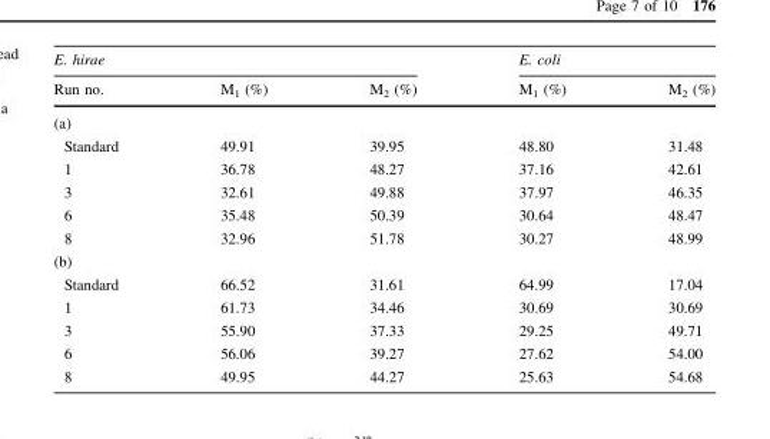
<table><thead><tr><td colspan="3">E. hirae</td><td colspan="2">E. coli</td></tr><tr><td>Run no.</td><td>M<sub>1</sub> (%)</td><td>M<sub>2</sub> (%)</td><td>M<sub>1</sub> (%)</td><td>M<sub>2</sub> (%)</td></tr></thead><tbody><tr><td colspan="5">(a)</td></tr><tr><td>Standard</td><td>49.91</td><td>39.95</td><td>48.80</td><td>31.48</td></tr><tr><td>1</td><td>36.78</td><td>48.27</td><td>37.16</td><td>42.61</td></tr><tr><td>3</td><td>32.61</td><td>49.88</td><td>37.97</td><td>46.35</td></tr><tr><td>6</td><td>35.48</td><td>50.39</td><td>30.64</td><td>48.47</td></tr><tr><td>8</td><td>32.96</td><td>51.78</td><td>30.27</td><td>48.99</td></tr><tr><td colspan="5">(b)</td></tr><tr><td>Standard</td><td>66.52</td><td>31.61</td><td>64.99</td><td>17.04</td></tr><tr><td>1</td><td>61.73</td><td>34.46</td><td>30.69</td><td>30.69</td></tr><tr><td>3</td><td>55.90</td><td>37.33</td><td>29.25</td><td>49.71</td></tr><tr><td>6</td><td>56.06</td><td>39.27</td><td>27.62</td><td>54.00</td></tr><tr><td>8</td><td>49.95</td><td>44.27</td><td>25.63</td><td>54.68</td></tr></tbody></table>